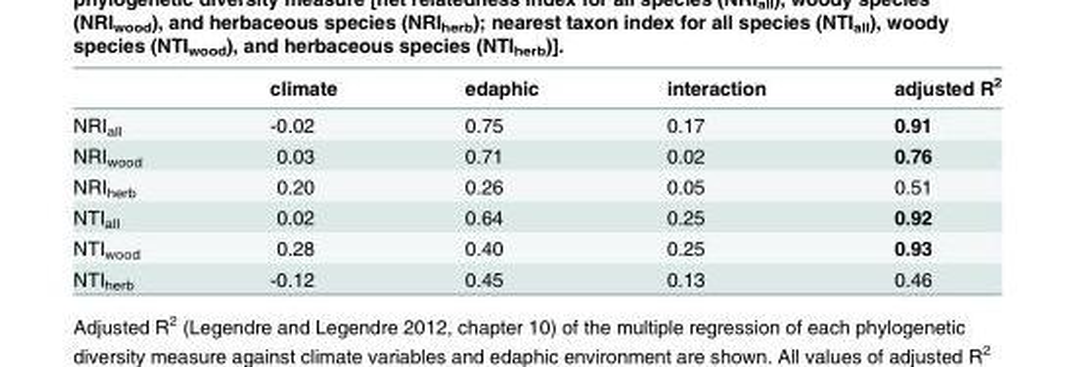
<table><thead><tr><td></td><td>climate</td><td>edaphic</td><td>interaction</td><td>adjusted R<sup>2</sup></td></tr></thead><tbody><tr><td>NRI<sub>all</sub></td><td>-0.02</td><td>0.75</td><td>0.17</td><td>0.91</td></tr><tr><td>NRI<sub>wood</sub></td><td>0.03</td><td>0.71</td><td>0.02</td><td>0.76</td></tr><tr><td>NRI<sub>herb</sub></td><td>0.20</td><td>0.26</td><td>0.05</td><td>0.51</td></tr><tr><td>NTI<sub>all</sub></td><td>0.02</td><td>0.64</td><td>0.25</td><td>0.92</td></tr><tr><td>NTI<sub>wood</sub></td><td>0.28</td><td>0.40</td><td>0.25</td><td>0.93</td></tr><tr><td>NTI<sub>herb</sub></td><td>-0.12</td><td>0.45</td><td>0.13</td><td>0.46</td></tr></tbody></table>